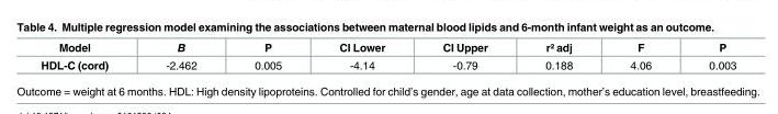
<table><thead><tr><td>Model</td><td>B</td><td>P</td><td>CI Lower</td><td>CI Upper</td><td>r² adj</td><td>F</td><td>P</td></tr></thead><tbody><tr><td>HDL-C (cord)</td><td>-2.462</td><td>0.005</td><td>-4.14</td><td>-0.79</td><td>0.188</td><td>4.06</td><td>0.003</td></tr></tbody></table>